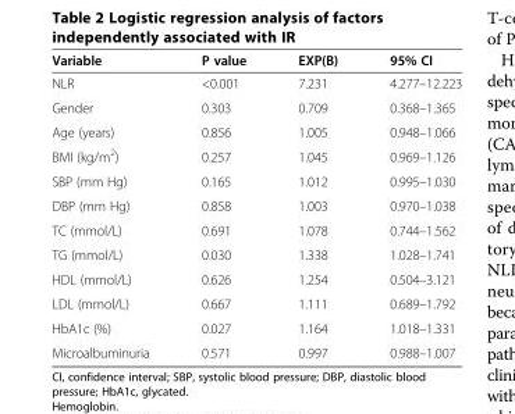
<table><thead><tr><td>Variable</td><td>P value</td><td>EXP(B)</td><td>95% CI</td></tr></thead><tbody><tr><td>NLR</td><td>&lt;0.001</td><td>7.231</td><td>4.277–12.223</td></tr><tr><td>Gender</td><td>0.303</td><td>0.709</td><td>0.368–1.365</td></tr><tr><td>Age (years)</td><td>0.856</td><td>1.005</td><td>0.948–1.066</td></tr><tr><td>BMI (kg/m<sup>2</sup>)</td><td>0.257</td><td>1.045</td><td>0.969–1.126</td></tr><tr><td>SBP (mm Hg)</td><td>0.165</td><td>1.012</td><td>0.995–1.030</td></tr><tr><td>DBP (mm Hg)</td><td>0.858</td><td>1.003</td><td>0.970–1.038</td></tr><tr><td>TC (mmol/L)</td><td>0.691</td><td>1.078</td><td>0.744–1.562</td></tr><tr><td>TG (mmol/L)</td><td>0.030</td><td>1.338</td><td>1.028–1.741</td></tr><tr><td>HDL (mmol/L)</td><td>0.626</td><td>1.254</td><td>0.504–3.121</td></tr><tr><td>LDL (mmol/L)</td><td>0.667</td><td>1.111</td><td>0.689–1.792</td></tr><tr><td>HbA1c (%)</td><td>0.027</td><td>1.164</td><td>1.018–1.331</td></tr><tr><td>Microalbuminuria</td><td>0.571</td><td>0.997</td><td>0.988–1.007</td></tr></tbody></table>